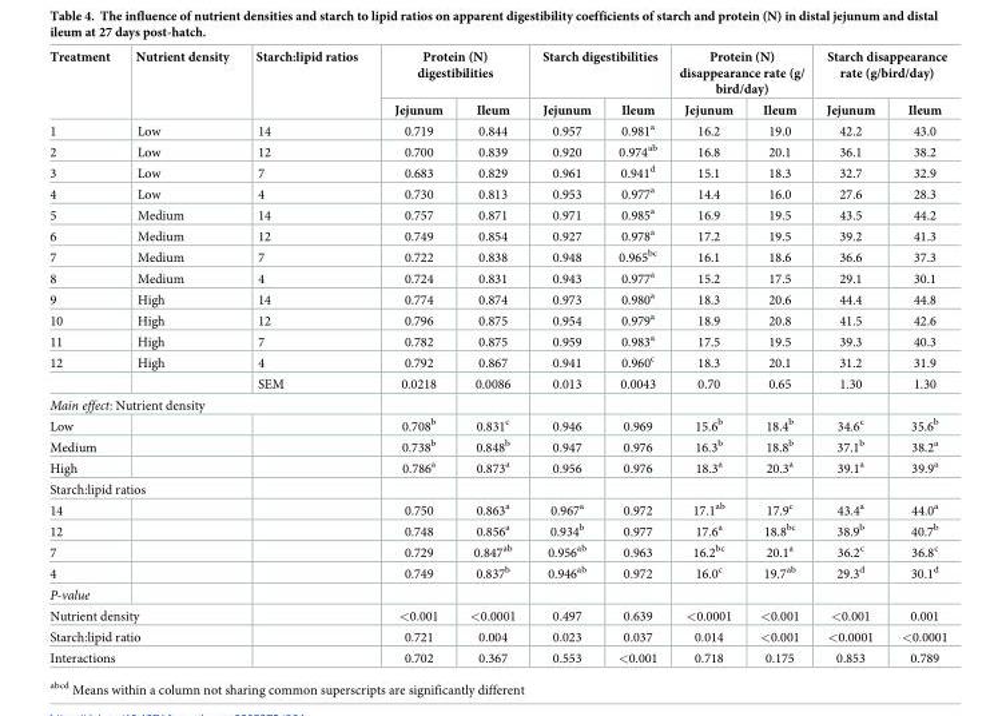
<table><thead><tr><td rowspan="2">Treatment</td><td rowspan="2">Nutrient density</td><td rowspan="2">Starch:lipid ratios</td><td colspan="2">Protein (N) digestibilities</td><td colspan="2">Starch digestibilities</td><td colspan="2">Protein (N) disappearance rate (g/ bird/day)</td><td colspan="2">Starch disappearance rate (g/bird/day)</td></tr><tr><td>Jejunum</td><td>Ileum</td><td>Jejunum</td><td>Ileum</td><td>Jejunum</td><td>Ileum</td><td>Jejunum</td><td>Ileum</td></tr></thead><tbody><tr><td>1</td><td>Low</td><td>14</td><td>0.719</td><td>0.844</td><td>0.957</td><td>0.981<sup>a</sup></td><td>16.2</td><td>19.0</td><td>42.2</td><td>43.0</td></tr><tr><td>2</td><td>Low</td><td>12</td><td>0.700</td><td>0.839</td><td>0.920</td><td>0.974<sup>ab</sup></td><td>16.8</td><td>20.1</td><td>36.1</td><td>38.2</td></tr><tr><td>3</td><td>Low</td><td>7</td><td>0.683</td><td>0.829</td><td>0.961</td><td>0.941<sup>d</sup></td><td>15.1</td><td>18.3</td><td>32.7</td><td>32.9</td></tr><tr><td>4</td><td>Low</td><td>4</td><td>0.730</td><td>0.813</td><td>0.953</td><td>0.977<sup>a</sup></td><td>14.4</td><td>16.0</td><td>27.6</td><td>28.3</td></tr><tr><td>5</td><td>Medium</td><td>14</td><td>0.757</td><td>0.871</td><td>0.971</td><td>0.985<sup>a</sup></td><td>16.9</td><td>19.5</td><td>43.5</td><td>44.2</td></tr><tr><td>6</td><td>Medium</td><td>12</td><td>0.749</td><td>0.854</td><td>0.927</td><td>0.978<sup>a</sup></td><td>17.2</td><td>19.5</td><td>39.2</td><td>41.3</td></tr><tr><td>7</td><td>Medium</td><td>7</td><td>0.722</td><td>0.838</td><td>0.948</td><td>0.965<sup>bc</sup></td><td>16.1</td><td>18.6</td><td>36.6</td><td>37.3</td></tr><tr><td>8</td><td>Medium</td><td>4</td><td>0.724</td><td>0.831</td><td>0.943</td><td>0.977<sup>a</sup></td><td>15.2</td><td>17.5</td><td>29.1</td><td>30.1</td></tr><tr><td>9</td><td>High</td><td>14</td><td>0.774</td><td>0.874</td><td>0.973</td><td>0.980<sup>a</sup></td><td>18.3</td><td>20.6</td><td>44.4</td><td>44.8</td></tr><tr><td>10</td><td>High</td><td>12</td><td>0.796</td><td>0.875</td><td>0.954</td><td>0.979<sup>a</sup></td><td>18.9</td><td>20.8</td><td>41.5</td><td>42.6</td></tr><tr><td>11</td><td>High</td><td>7</td><td>0.782</td><td>0.875</td><td>0.959</td><td>0.983<sup>a</sup></td><td>17.5</td><td>19.5</td><td>39.3</td><td>40.3</td></tr><tr><td rowspan="2">12</td><td>High</td><td>4</td><td>0.792</td><td>0.867</td><td>0.941</td><td>0.960<sup>c</sup></td><td>18.3</td><td>20.1</td><td>31.2</td><td>31.9</td></tr><tr><td></td><td>SEM</td><td>0.0218</td><td>0.0086</td><td>0.013</td><td>0.0043</td><td>0.70</td><td>0.65</td><td>1.30</td><td>1.30</td></tr><tr><td colspan="11">Main effect: Nutrient density</td></tr><tr><td>Low</td><td></td><td></td><td>0.708<sup>b</sup></td><td>0.831<sup>c</sup></td><td>0.946</td><td>0.969</td><td>15.6<sup>b</sup></td><td>18.4<sup>b</sup></td><td>34.6<sup>c</sup></td><td>35.6<sup>b</sup></td></tr><tr><td>Medium</td><td></td><td></td><td>0.738<sup>b</sup></td><td>0.848<sup>b</sup></td><td>0.947</td><td>0.976</td><td>16.3<sup>b</sup></td><td>18.8<sup>b</sup></td><td>37.1<sup>b</sup></td><td>38.2<sup>a</sup></td></tr><tr><td>High</td><td></td><td></td><td>0.786<sup>a</sup></td><td>0.873<sup>a</sup></td><td>0.956</td><td>0.976</td><td>18.3<sup>a</sup></td><td>20.3<sup>a</sup></td><td>39.1<sup>a</sup></td><td>39.9<sup>a</sup></td></tr><tr><td colspan="11">Starch:lipid ratios</td></tr><tr><td>14</td><td></td><td></td><td>0.750</td><td>0.863<sup>a</sup></td><td>0.967<sup>a</sup></td><td>0.972</td><td>17.1<sup>ab</sup></td><td>17.9<sup>c</sup></td><td>43.4<sup>a</sup></td><td>44.0<sup>a</sup></td></tr><tr><td>12</td><td></td><td></td><td>0.748</td><td>0.856<sup>a</sup></td><td>0.934<sup>b</sup></td><td>0.977</td><td>17.6<sup>a</sup></td><td>18.8<sup>bc</sup></td><td>38.9<sup>b</sup></td><td>40.7<sup>b</sup></td></tr><tr><td>7</td><td></td><td></td><td>0.729</td><td>0.847<sup>ab</sup></td><td>0.956<sup>ab</sup></td><td>0.963</td><td>16.2<sup>bc</sup></td><td>20.1<sup>a</sup></td><td>36.2<sup>c</sup></td><td>36.8<sup>c</sup></td></tr><tr><td>4</td><td></td><td></td><td>0.749</td><td>0.837<sup>b</sup></td><td>0.946<sup>ab</sup></td><td>0.972</td><td>16.0<sup>c</sup></td><td>19.7<sup>ab</sup></td><td>29.3<sup>d</sup></td><td>30.1<sup>d</sup></td></tr><tr><td colspan="11">P-value</td></tr><tr><td colspan="2">Nutrient density</td><td></td><td>&lt;0.001</td><td>&lt;0.0001</td><td>0.497</td><td>0.639</td><td>&lt;0.0001</td><td>&lt;0.001</td><td>&lt;0.001</td><td>0.001</td></tr><tr><td colspan="2">Starch:lipid ratio</td><td></td><td>0.721</td><td>0.004</td><td>0.023</td><td>0.037</td><td>0.014</td><td>&lt;0.001</td><td>&lt;0.0001</td><td>&lt;0.0001</td></tr><tr><td colspan="2">Interactions</td><td></td><td>0.702</td><td>0.367</td><td>0.553</td><td>&lt;0.001</td><td>0.718</td><td>0.175</td><td>0.853</td><td>0.789</td></tr></tbody></table>